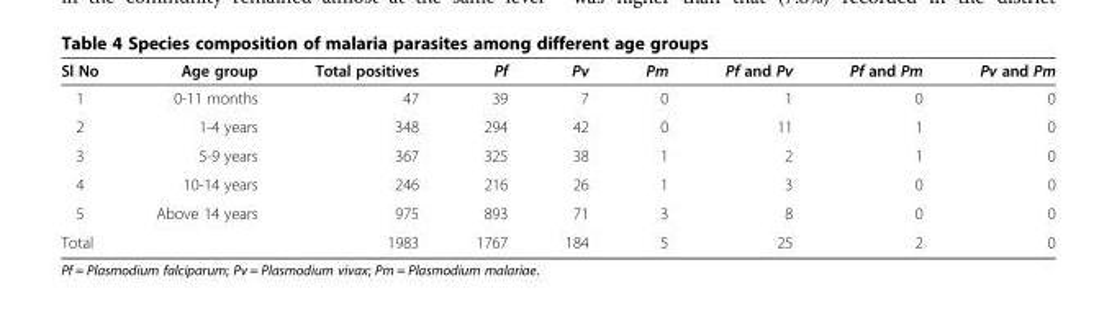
<table><thead><tr><td>Sl No</td><td>Age group</td><td>Total positives</td><td>Pf</td><td>Pv</td><td>Pm</td><td>Pf and Pv</td><td>Pf and Pm</td><td>Pv and Pm</td></tr></thead><tbody><tr><td>1</td><td>0-11 months</td><td>47</td><td>39</td><td>7</td><td>0</td><td>1</td><td>0</td><td>0</td></tr><tr><td>2</td><td>1-4 years</td><td>348</td><td>294</td><td>42</td><td>0</td><td>11</td><td>1</td><td>0</td></tr><tr><td>3</td><td>5-9 years</td><td>367</td><td>325</td><td>38</td><td>1</td><td>2</td><td>1</td><td>0</td></tr><tr><td>4</td><td>10-14 years</td><td>246</td><td>216</td><td>26</td><td>1</td><td>3</td><td>0</td><td>0</td></tr><tr><td>5</td><td>Above 14 years</td><td>975</td><td>893</td><td>71</td><td>3</td><td>8</td><td>0</td><td>0</td></tr><tr><td colspan="2">Total</td><td>1983</td><td>1767</td><td>184</td><td>5</td><td>25</td><td>2</td><td>0</td></tr></tbody></table>